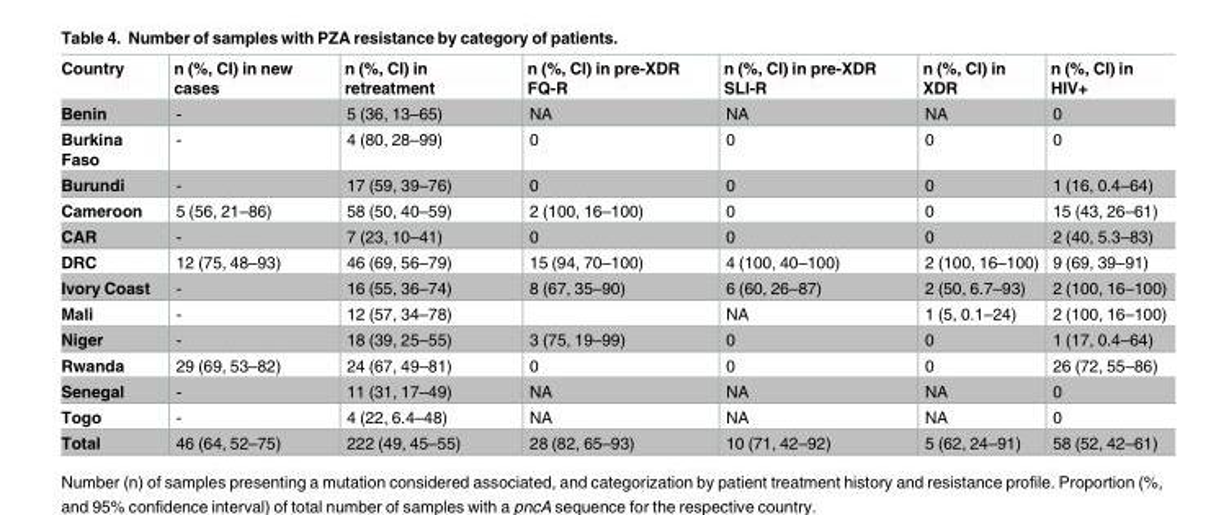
<table><thead><tr><td>Country</td><td>n (%, CI) in new cases</td><td>n (%, CI) in retreatment</td><td>n (%, CI) in pre-XDR FQ-R</td><td>n (%, CI) in pre-XDR SLI-R</td><td>n (%, CI) in XDR</td><td>n (%, CI) in HIV+</td></tr></thead><tbody><tr><td>Benin</td><td>-</td><td>5 (36, 13–65)</td><td>NA</td><td>NA</td><td>NA</td><td>0</td></tr><tr><td>Burkina Faso</td><td>-</td><td>4 (80, 28–99)</td><td>0</td><td>0</td><td>0</td><td>0</td></tr><tr><td>Burundi</td><td>-</td><td>17 (59, 39–76)</td><td>0</td><td>0</td><td>0</td><td>1 (16, 0.4–64)</td></tr><tr><td>Cameroon</td><td>5 (56, 21–86)</td><td>58 (50, 40–59)</td><td>2 (100, 16–100)</td><td>0</td><td>0</td><td>15 (43, 26–61)</td></tr><tr><td>CAR</td><td>-</td><td>7 (23, 10–41)</td><td>0</td><td>0</td><td>0</td><td>2 (40, 5.3–83)</td></tr><tr><td>DRC</td><td>12 (75, 48–93)</td><td>46 (69, 56–79)</td><td>15 (94, 70–100)</td><td>4 (100, 40–100)</td><td>2 (100, 16–100)</td><td>9 (69, 39–91)</td></tr><tr><td>Ivory Coast</td><td>-</td><td>16 (55, 36–74)</td><td>8 (67, 35–90)</td><td>6 (60, 26–87)</td><td>2 (50, 6.7–93)</td><td>2 (100, 16–100)</td></tr><tr><td>Mali</td><td>-</td><td>12 (57, 34–78)</td><td></td><td>NA</td><td>1 (5, 0.1–24)</td><td>2 (100, 16–100)</td></tr><tr><td>Niger</td><td>-</td><td>18 (39, 25–55)</td><td>3 (75, 19–99)</td><td>0</td><td>0</td><td>1 (17, 0.4–64)</td></tr><tr><td>Rwanda</td><td>29 (69, 53–82)</td><td>24 (67, 49–81)</td><td>0</td><td>0</td><td>0</td><td>26 (72, 55–86)</td></tr><tr><td>Senegal</td><td>-</td><td>11 (31, 17–49)</td><td>NA</td><td>NA</td><td>NA</td><td>0</td></tr><tr><td>Togo</td><td>-</td><td>4 (22, 6.4–48)</td><td>NA</td><td>NA</td><td>NA</td><td>0</td></tr><tr><td>Total</td><td>46 (64, 52–75)</td><td>222 (49, 45–55)</td><td>28 (82, 65–93)</td><td>10 (71, 42–92)</td><td>5 (62, 24–91)</td><td>58 (52, 42–61)</td></tr></tbody></table>